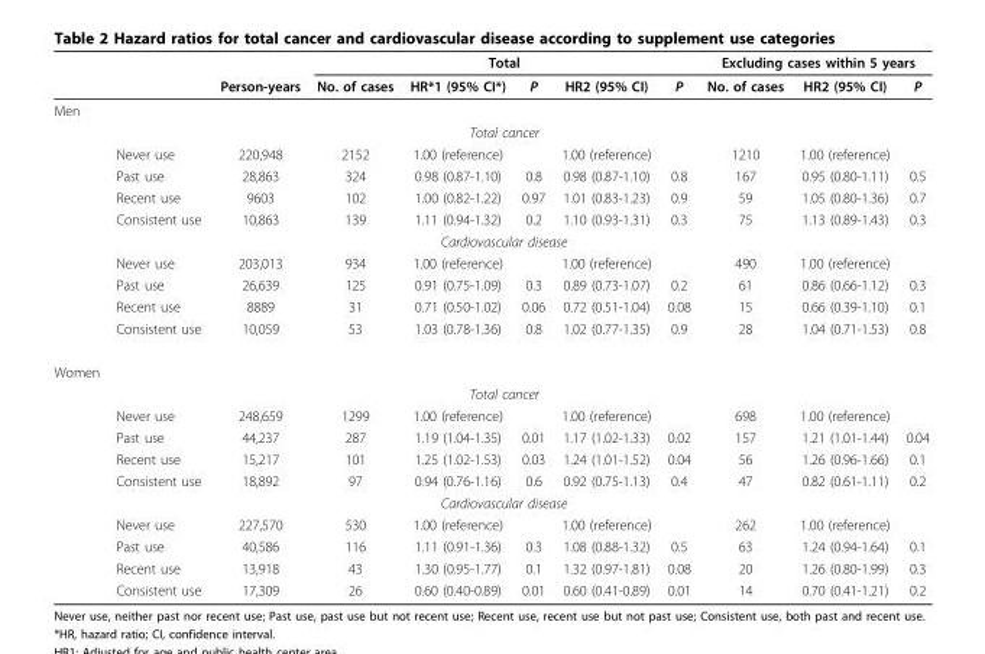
<table><thead><tr><td rowspan="2"></td><td rowspan="2"></td><td rowspan="2">Person-years</td><td colspan="5">Total</td><td colspan="3">Excluding cases within 5 years</td></tr><tr><td>No. of cases</td><td>HR*1 (95% CI*)</td><td>P</td><td>HR2 (95% CI)</td><td>P</td><td>No. of cases</td><td>HR2 (95% CI)</td><td>P</td></tr></thead><tbody><tr><td colspan="11">Men</td></tr><tr><td></td><td></td><td></td><td colspan="5">Total cancer</td><td></td><td></td><td></td></tr><tr><td></td><td>Never use</td><td>220,948</td><td>2152</td><td>1.00 (reference)</td><td></td><td>1.00 (reference)</td><td></td><td>1210</td><td>1.00 (reference)</td><td></td></tr><tr><td></td><td>Past use</td><td>28,863</td><td>324</td><td>0.98 (0.87-1.10)</td><td>0.8</td><td>0.98 (0.87-1.10)</td><td>0.8</td><td>167</td><td>0.95 (0.80-1.11)</td><td>0.5</td></tr><tr><td></td><td>Recent use</td><td>9603</td><td>102</td><td>1.00 (0.82-1.22)</td><td>0.97</td><td>1.01 (0.83-1.23)</td><td>0.9</td><td>59</td><td>1.05 (0.80-1.36)</td><td>0.7</td></tr><tr><td></td><td>Consistent use</td><td>10,863</td><td>139</td><td>1.11 (0.94-1.32)</td><td>0.2</td><td>1.10 (0.93-1.31)</td><td>0.3</td><td>75</td><td>1.13 (0.89-1.43)</td><td>0.3</td></tr><tr><td></td><td></td><td></td><td colspan="5">Cardiovascular disease</td><td></td><td></td><td></td></tr><tr><td></td><td>Never use</td><td>203,013</td><td>934</td><td>1.00 (reference)</td><td></td><td>1.00 (reference)</td><td></td><td>490</td><td>1.00 (reference)</td><td></td></tr><tr><td></td><td>Past use</td><td>26,639</td><td>125</td><td>0.91 (0.75-1.09)</td><td>0.3</td><td>0.89 (0.73-1.07)</td><td>0.2</td><td>61</td><td>0.86 (0.66-1.12)</td><td>0.3</td></tr><tr><td></td><td>Recent use</td><td>8889</td><td>31</td><td>0.71 (0.50-1.02)</td><td>0.06</td><td>0.72 (0.51-1.04)</td><td>0.08</td><td>15</td><td>0.66 (0.39-1.10)</td><td>0.1</td></tr><tr><td></td><td>Consistent use</td><td>10,059</td><td>53</td><td>1.03 (0.78-1.36)</td><td>0.8</td><td>1.02 (0.77-1.35)</td><td>0.9</td><td>28</td><td>1.04 (0.71-1.53)</td><td>0.8</td></tr><tr><td colspan="11">Women</td></tr><tr><td></td><td></td><td></td><td colspan="5">Total cancer</td><td></td><td></td><td></td></tr><tr><td></td><td>Never use</td><td>248,659</td><td>1299</td><td>1.00 (reference)</td><td></td><td>1.00 (reference)</td><td></td><td>698</td><td>1.00 (reference)</td><td></td></tr><tr><td></td><td>Past use</td><td>44,237</td><td>287</td><td>1.19 (1.04-1.35)</td><td>0.01</td><td>1.17 (1.02-1.33)</td><td>0.02</td><td>157</td><td>1.21 (1.01-1.44)</td><td>0.04</td></tr><tr><td></td><td>Recent use</td><td>15,217</td><td>101</td><td>1.25 (1.02-1.53)</td><td>0.03</td><td>1.24 (1.01-1.52)</td><td>0.04</td><td>56</td><td>1.26 (0.96-1.66)</td><td>0.1</td></tr><tr><td></td><td>Consistent use</td><td>18,892</td><td>97</td><td>0.94 (0.76-1.16)</td><td>0.6</td><td>0.92 (0.75-1.13)</td><td>0.4</td><td>47</td><td>0.82 (0.61-1.11)</td><td>0.2</td></tr><tr><td></td><td></td><td></td><td colspan="5">Cardiovascular disease</td><td></td><td></td><td></td></tr><tr><td></td><td>Never use</td><td>227,570</td><td>530</td><td>1.00 (reference)</td><td></td><td>1.00 (reference)</td><td></td><td>262</td><td>1.00 (reference)</td><td></td></tr><tr><td></td><td>Past use</td><td>40,586</td><td>116</td><td>1.11 (0.91-1.36)</td><td>0.3</td><td>1.08 (0.88-1.32)</td><td>0.5</td><td>63</td><td>1.24 (0.94-1.64)</td><td>0.1</td></tr><tr><td></td><td>Recent use</td><td>13,918</td><td>43</td><td>1.30 (0.95-1.77)</td><td>0.1</td><td>1.32 (0.97-1.81)</td><td>0.08</td><td>20</td><td>1.26 (0.80-1.99)</td><td>0.3</td></tr><tr><td></td><td>Consistent use</td><td>17,309</td><td>26</td><td>0.60 (0.40-0.89)</td><td>0.01</td><td>0.60 (0.41-0.89)</td><td>0.01</td><td>14</td><td>0.70 (0.41-1.21)</td><td>0.2</td></tr></tbody></table>